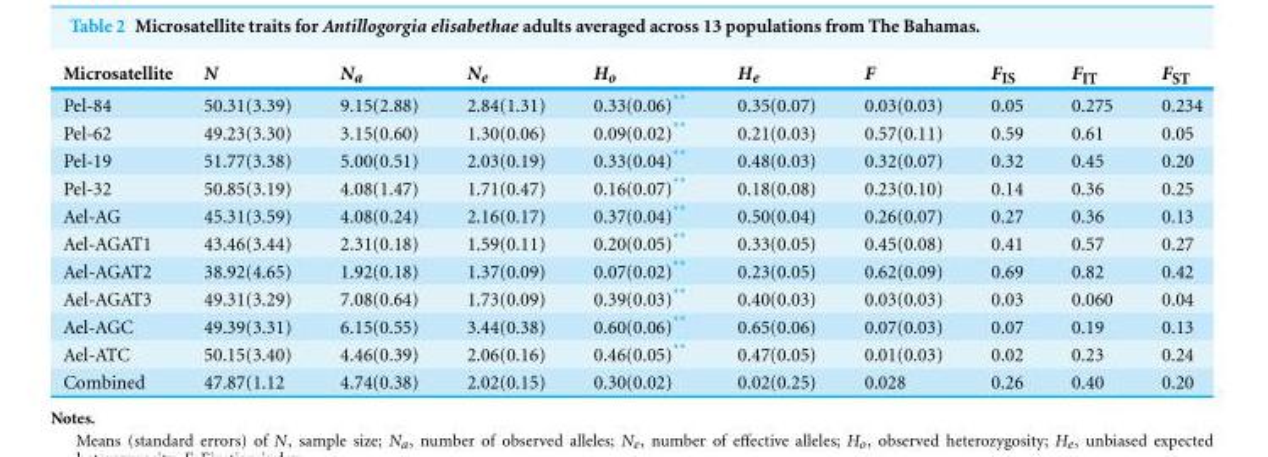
<table><thead><tr><td>Microsatellite</td><td>N</td><td>N<sub>a</sub></td><td>N<sub>e</sub></td><td>H<sub>o</sub></td><td>H<sub>e</sub></td><td>F</td><td>F<sub>IS</sub></td><td>F<sub>IT</sub></td><td>F<sub>ST</sub></td></tr></thead><tbody><tr><td>Pel-84</td><td>50.31(3.39)</td><td>9.15(2.88)</td><td>2.84(1.31)</td><td>0.33(0.06)**</td><td>0.35(0.07)</td><td>0.03(0.03)</td><td>0.05</td><td>0.275</td><td>0.234</td></tr><tr><td>Pel-62</td><td>49.23(3.30)</td><td>3.15(0.60)</td><td>1.30(0.06)</td><td>0.09(0.02)**</td><td>0.21(0.03)</td><td>0.57(0.11)</td><td>0.59</td><td>0.61</td><td>0.05</td></tr><tr><td>Pel-19</td><td>51.77(3.38)</td><td>5.00(0.51)</td><td>2.03(0.19)</td><td>0.33(0.04)**</td><td>0.48(0.03)</td><td>0.32(0.07)</td><td>0.32</td><td>0.45</td><td>0.20</td></tr><tr><td>Pel-32</td><td>50.85(3.19)</td><td>4.08(1.47)</td><td>1.71(0.47)</td><td>0.16(0.07)**</td><td>0.18(0.08)</td><td>0.23(0.10)</td><td>0.14</td><td>0.36</td><td>0.25</td></tr><tr><td>Ael-AG</td><td>45.31(3.59)</td><td>4.08(0.24)</td><td>2.16(0.17)</td><td>0.37(0.04)**</td><td>0.50(0.04)</td><td>0.26(0.07)</td><td>0.27</td><td>0.36</td><td>0.13</td></tr><tr><td>Ael-AGAT1</td><td>43.46(3.44)</td><td>2.31(0.18)</td><td>1.59(0.11)</td><td>0.20(0.05)**</td><td>0.33(0.05)</td><td>0.45(0.08)</td><td>0.41</td><td>0.57</td><td>0.27</td></tr><tr><td>Ael-AGAT2</td><td>38.92(4.65)</td><td>1.92(0.18)</td><td>1.37(0.09)</td><td>0.07(0.02)**</td><td>0.23(0.05)</td><td>0.62(0.09)</td><td>0.69</td><td>0.82</td><td>0.42</td></tr><tr><td>Ael-AGAT3</td><td>49.31(3.29)</td><td>7.08(0.64)</td><td>1.73(0.09)</td><td>0.39(0.03)**</td><td>0.40(0.03)</td><td>0.03(0.03)</td><td>0.03</td><td>0.060</td><td>0.04</td></tr><tr><td>Ael-AGC</td><td>49.39(3.31)</td><td>6.15(0.55)</td><td>3.44(0.38)</td><td>0.60(0.06)**</td><td>0.65(0.06)</td><td>0.07(0.03)</td><td>0.07</td><td>0.19</td><td>0.13</td></tr><tr><td>Ael-ATC</td><td>50.15(3.40)</td><td>4.46(0.39)</td><td>2.06(0.16)</td><td>0.46(0.05)**</td><td>0.47(0.05)</td><td>0.01(0.03)</td><td>0.02</td><td>0.23</td><td>0.24</td></tr><tr><td>Combined</td><td>47.87(1.12</td><td>4.74(0.38)</td><td>2.02(0.15)</td><td>0.30(0.02)</td><td>0.02(0.25)</td><td>0.028</td><td>0.26</td><td>0.40</td><td>0.20</td></tr></tbody></table>